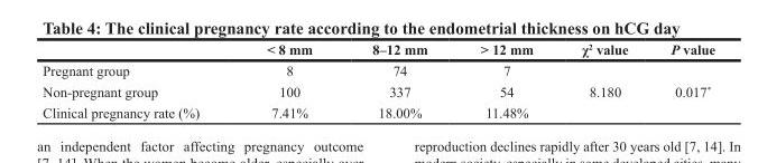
<table><thead><tr><td></td><td>&lt; 8 mm</td><td>8–12 mm</td><td>&gt; 12 mm</td><td>χ<sup>2</sup> value</td><td>P value</td></tr></thead><tbody><tr><td>Pregnant group</td><td>8</td><td>74</td><td>7</td><td rowspan="3">8.180</td><td rowspan="3">0.017*</td></tr><tr><td>Non-pregnant group</td><td>100</td><td>337</td><td>54</td></tr><tr><td>Clinical pregnancy rate (%)</td><td>7.41%</td><td>18.00%</td><td>11.48%</td></tr></tbody></table>